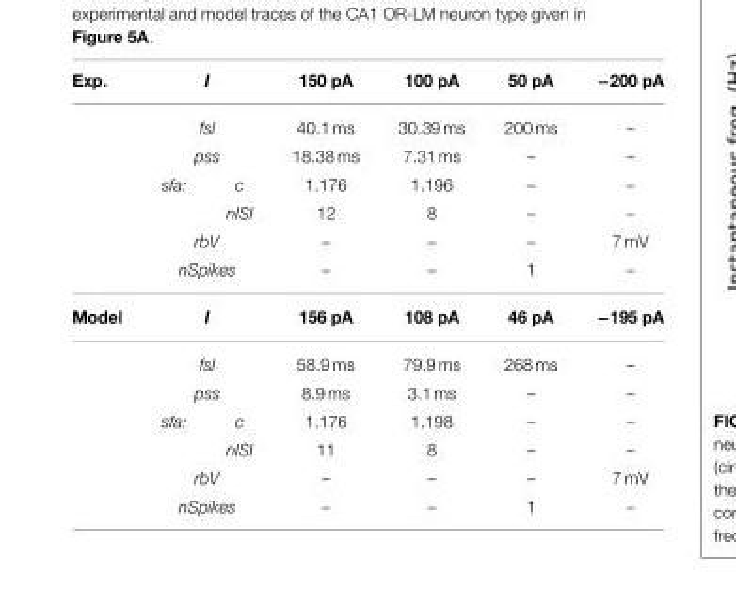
<table><thead><tr><td rowspan="4">Exp.</td><td rowspan="3" colspan="2">I fsl pss</td><td rowspan="4">150 pA 40.1 ms 18.38 ms 1.176</td><td rowspan="4">100 pA 30.39 ms 7.31 ms 1.196</td><td rowspan="4">50 pA 200 ms – –</td><td rowspan="4">−200 pA – – –</td></tr><tr></tr><tr></tr><tr><td>sfa:</td><td>c</td></tr></thead><tbody><tr><td></td><td></td><td>nISI</td><td>12</td><td>8</td><td>–</td><td>–</td></tr><tr><td></td><td colspan="2">rbV</td><td>–</td><td>–</td><td>–</td><td>7 mV</td></tr><tr><td></td><td colspan="2">nSpikes</td><td>–</td><td>–</td><td>1</td><td>–</td></tr><tr><td rowspan="7">Model</td><td colspan="2">I</td><td>156 pA</td><td>108 pA</td><td>46 pA</td><td>−195 pA</td></tr><tr><td colspan="2">fsl</td><td>58.9 ms</td><td>79.9 ms</td><td>268 ms</td><td>–</td></tr><tr><td colspan="2">pss</td><td>8.9 ms</td><td>3.1 ms</td><td>–</td><td>–</td></tr><tr><td>sfa:</td><td>c</td><td>1.176</td><td>1.198</td><td>–</td><td>–</td></tr><tr><td></td><td>nISI</td><td>11</td><td>8</td><td>–</td><td>–</td></tr><tr><td colspan="2">rbV</td><td>–</td><td>–</td><td>–</td><td>7 mV</td></tr><tr><td colspan="2">nSpikes</td><td>–</td><td>–</td><td>1</td><td>–</td></tr></tbody></table>